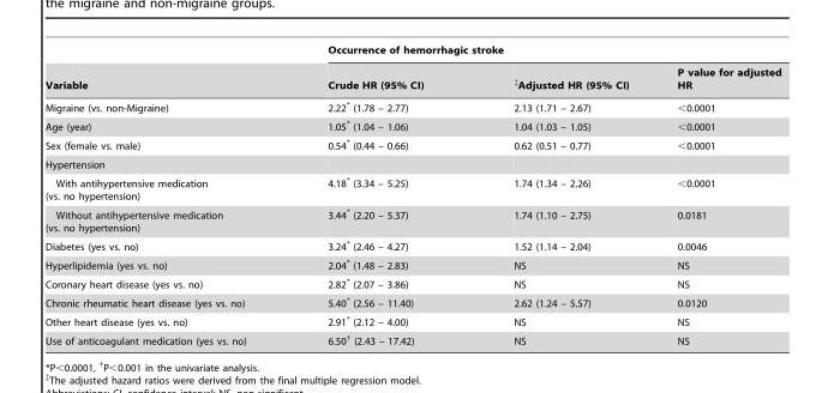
<table><thead><tr><td rowspan="2">Variable</td><td colspan="3">Occurrence of hemorrhagic stroke</td></tr><tr><td>Crude HR (95% CI)</td><td>‡Adjusted HR (95% CI)</td><td>P value for adjusted HR</td></tr></thead><tbody><tr><td>Migraine (vs. non-Migraine)</td><td>2.22* (1.78 – 2.77)</td><td>2.13 (1.71 – 2.67)</td><td>&lt;0.0001</td></tr><tr><td>Age (year)</td><td>1.05* (1.04 – 1.06)</td><td>1.04 (1.03 – 1.05)</td><td>&lt;0.0001</td></tr><tr><td>Sex (female vs. male)</td><td>0.54* (0.44 – 0.66)</td><td>0.62 (0.51 – 0.77)</td><td>&lt;0.0001</td></tr><tr><td colspan="4">Hypertension</td></tr><tr><td>With antihypertensive medication (vs. no hypertension)</td><td>4.18* (3.34 – 5.25)</td><td>1.74 (1.34 – 2.26)</td><td>&lt;0.0001</td></tr><tr><td>Without antihypertensive medication (vs. no hypertension)</td><td>3.44* (2.20 – 5.37)</td><td>1.74 (1.10 – 2.75)</td><td>0.0181</td></tr><tr><td>Diabetes (yes vs. no)</td><td>3.24* (2.46 – 4.27)</td><td>1.52 (1.14 – 2.04)</td><td>0.0046</td></tr><tr><td>Hyperlipidemia (yes vs. no)</td><td>2.04* (1.48 – 2.83)</td><td>NS</td><td>NS</td></tr><tr><td>Coronary heart disease (yes vs. no)</td><td>2.82* (2.07 – 3.86)</td><td>NS</td><td>NS</td></tr><tr><td>Chronic rheumatic heart disease (yes vs. no)</td><td>5.40* (2.56 – 11.40)</td><td>2.62 (1.24 – 5.57)</td><td>0.0120</td></tr><tr><td>Other heart disease (yes vs. no)</td><td>2.91* (2.12 – 4.00)</td><td>NS</td><td>NS</td></tr><tr><td>Use of anticoagulant medication (yes vs. no)</td><td>6.50<sup>†</sup> (2.43 – 17.42)</td><td>NS</td><td>NS</td></tr></tbody></table>